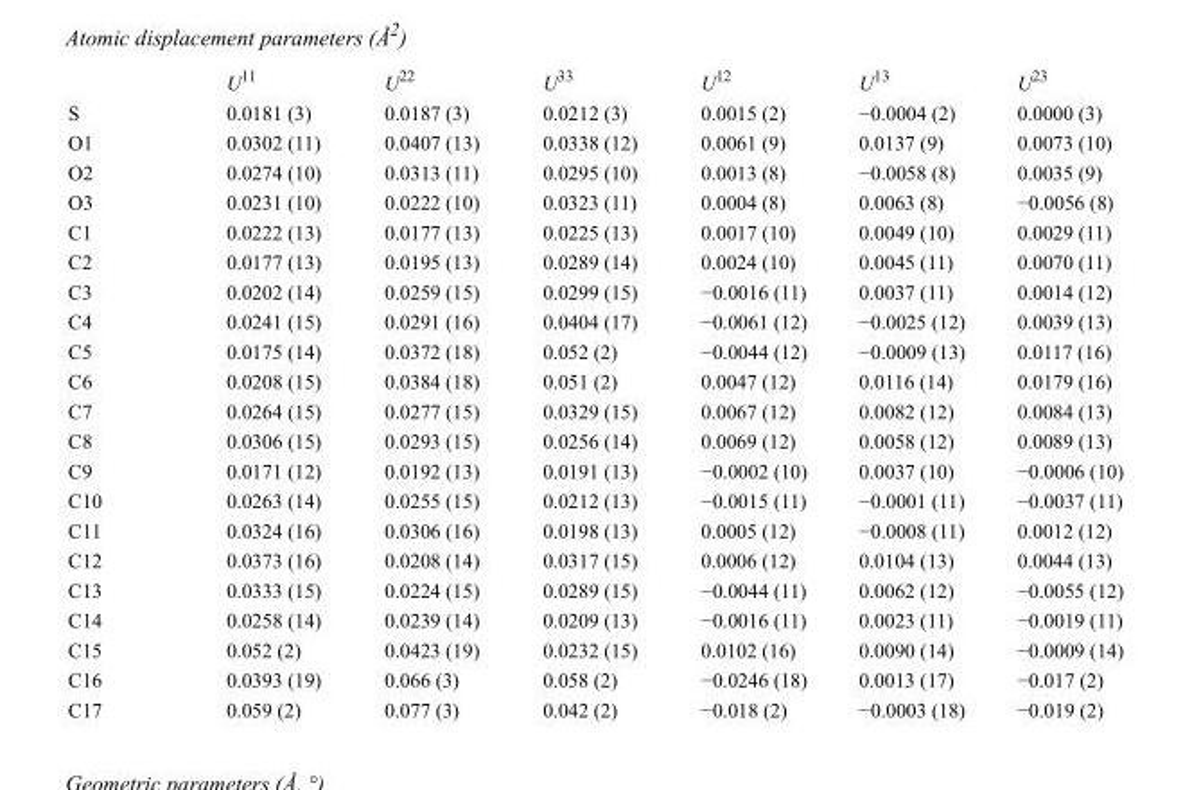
<table><thead><tr><td></td><td>U<sup>11</sup></td><td>U<sup>22</sup></td><td>U<sup>33</sup></td><td>U<sup>12</sup></td><td>U<sup>13</sup></td><td>U<sup>23</sup></td></tr></thead><tbody><tr><td>S</td><td>0.0181 (3)</td><td>0.0187 (3)</td><td>0.0212 (3)</td><td>0.0015 (2)</td><td>−0.0004 (2)</td><td>0.0000 (3)</td></tr><tr><td>O1</td><td>0.0302 (11)</td><td>0.0407 (13)</td><td>0.0338 (12)</td><td>0.0061 (9)</td><td>0.0137 (9)</td><td>0.0073 (10)</td></tr><tr><td>O2</td><td>0.0274 (10)</td><td>0.0313 (11)</td><td>0.0295 (10)</td><td>0.0013 (8)</td><td>−0.0058 (8)</td><td>0.0035 (9)</td></tr><tr><td>O3</td><td>0.0231 (10)</td><td>0.0222 (10)</td><td>0.0323 (11)</td><td>0.0004 (8)</td><td>0.0063 (8)</td><td>−0.0056 (8)</td></tr><tr><td>C1</td><td>0.0222 (13)</td><td>0.0177 (13)</td><td>0.0225 (13)</td><td>0.0017 (10)</td><td>0.0049 (10)</td><td>0.0029 (11)</td></tr><tr><td>C2</td><td>0.0177 (13)</td><td>0.0195 (13)</td><td>0.0289 (14)</td><td>0.0024 (10)</td><td>0.0045 (11)</td><td>0.0070 (11)</td></tr><tr><td>C3</td><td>0.0202 (14)</td><td>0.0259 (15)</td><td>0.0299 (15)</td><td>−0.0016 (11)</td><td>0.0037 (11)</td><td>0.0014 (12)</td></tr><tr><td>C4</td><td>0.0241 (15)</td><td>0.0291 (16)</td><td>0.0404 (17)</td><td>−0.0061 (12)</td><td>−0.0025 (12)</td><td>0.0039 (13)</td></tr><tr><td>C5</td><td>0.0175 (14)</td><td>0.0372 (18)</td><td>0.052 (2)</td><td>−0.0044 (12)</td><td>−0.0009 (13)</td><td>0.0117 (16)</td></tr><tr><td>C6</td><td>0.0208 (15)</td><td>0.0384 (18)</td><td>0.051 (2)</td><td>0.0047 (12)</td><td>0.0116 (14)</td><td>0.0179 (16)</td></tr><tr><td>C7</td><td>0.0264 (15)</td><td>0.0277 (15)</td><td>0.0329 (15)</td><td>0.0067 (12)</td><td>0.0082 (12)</td><td>0.0084 (13)</td></tr><tr><td>C8</td><td>0.0306 (15)</td><td>0.0293 (15)</td><td>0.0256 (14)</td><td>0.0069 (12)</td><td>0.0058 (12)</td><td>0.0089 (13)</td></tr><tr><td>C9</td><td>0.0171 (12)</td><td>0.0192 (13)</td><td>0.0191 (13)</td><td>−0.0002 (10)</td><td>0.0037 (10)</td><td>−0.0006 (10)</td></tr><tr><td>C10</td><td>0.0263 (14)</td><td>0.0255 (15)</td><td>0.0212 (13)</td><td>−0.0015 (11)</td><td>−0.0001 (11)</td><td>−0.0037 (11)</td></tr><tr><td>C11</td><td>0.0324 (16)</td><td>0.0306 (16)</td><td>0.0198 (13)</td><td>0.0005 (12)</td><td>−0.0008 (11)</td><td>0.0012 (12)</td></tr><tr><td>C12</td><td>0.0373 (16)</td><td>0.0208 (14)</td><td>0.0317 (15)</td><td>0.0006 (12)</td><td>0.0104 (13)</td><td>0.0044 (13)</td></tr><tr><td>C13</td><td>0.0333 (15)</td><td>0.0224 (15)</td><td>0.0289 (15)</td><td>−0.0044 (11)</td><td>0.0062 (12)</td><td>−0.0055 (12)</td></tr><tr><td>C14</td><td>0.0258 (14)</td><td>0.0239 (14)</td><td>0.0209 (13)</td><td>−0.0016 (11)</td><td>0.0023 (11)</td><td>−0.0019 (11)</td></tr><tr><td>C15</td><td>0.052 (2)</td><td>0.0423 (19)</td><td>0.0232 (15)</td><td>0.0102 (16)</td><td>0.0090 (14)</td><td>−0.0009 (14)</td></tr><tr><td>C16</td><td>0.0393 (19)</td><td>0.066 (3)</td><td>0.058 (2)</td><td>−0.0246 (18)</td><td>0.0013 (17)</td><td>−0.017 (2)</td></tr><tr><td>C17</td><td>0.059 (2)</td><td>0.077 (3)</td><td>0.042 (2)</td><td>−0.018 (2)</td><td>−0.0003 (18)</td><td>−0.019 (2)</td></tr></tbody></table>